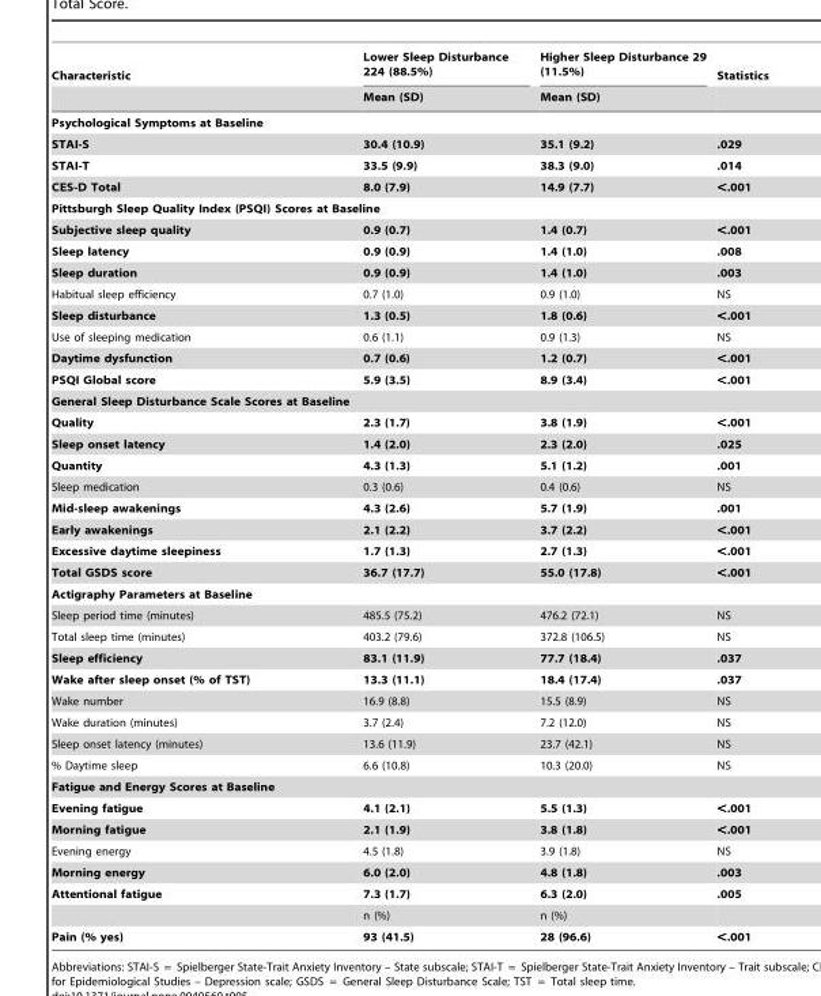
<table><thead><tr><td rowspan="2">Characteristic</td><td rowspan="2">Lower Sleep Disturbance 224 (88.5%) Mean (SD)</td><td rowspan="2">Higher Sleep Disturbance 29 (11.5%) Mean (SD)</td><td rowspan="2">Statistics</td></tr><tr></tr></thead><tbody><tr><td colspan="4">Psychological Symptoms at Baseline</td></tr><tr><td>STAI-S</td><td>30.4 (10.9)</td><td>35.1 (9.2)</td><td>.029</td></tr><tr><td>STAI-T</td><td>33.5 (9.9)</td><td>38.3 (9.0)</td><td>.014</td></tr><tr><td>CES-D Total</td><td>8.0 (7.9)</td><td>14.9 (7.7)</td><td>&lt;.001</td></tr><tr><td colspan="4">Pittsburgh Sleep Quality Index (PSQI) Scores at Baseline</td></tr><tr><td>Subjective sleep quality</td><td>0.9 (0.7)</td><td>1.4 (0.7)</td><td>&lt;.001</td></tr><tr><td>Sleep latency</td><td>0.9 (0.9)</td><td>1.4 (1.0)</td><td>.008</td></tr><tr><td>Sleep duration</td><td>0.9 (0.9)</td><td>1.4 (1.0)</td><td>.003</td></tr><tr><td>Habitual sleep efficiency</td><td>0.7 (1.0)</td><td>0.9 (1.0)</td><td>NS</td></tr><tr><td>Sleep disturbance</td><td>1.3 (0.5)</td><td>1.8 (0.6)</td><td>&lt;.001</td></tr><tr><td>Use of sleeping medication</td><td>0.6 (1.1)</td><td>0.9 (1.3)</td><td>NS</td></tr><tr><td>Daytime dysfunction</td><td>0.7 (0.6)</td><td>1.2 (0.7)</td><td>&lt;.001</td></tr><tr><td>PSQI Global score</td><td>5.9 (3.5)</td><td>8.9 (3.4)</td><td>&lt;.001</td></tr><tr><td colspan="4">General Sleep Disturbance Scale Scores at Baseline</td></tr><tr><td>Quality</td><td>2.3 (1.7)</td><td>3.8 (1.9)</td><td>&lt;.001</td></tr><tr><td>Sleep onset latency</td><td>1.4 (2.0)</td><td>2.3 (2.0)</td><td>.025</td></tr><tr><td>Quantity</td><td>4.3 (1.3)</td><td>5.1 (1.2)</td><td>.001</td></tr><tr><td>Sleep medication</td><td>0.3 (0.6)</td><td>0.4 (0.6)</td><td>NS</td></tr><tr><td>Mid-sleep awakenings</td><td>4.3 (2.6)</td><td>5.7 (1.9)</td><td>.001</td></tr><tr><td>Early awakenings</td><td>2.1 (2.2)</td><td>3.7 (2.2)</td><td>&lt;.001</td></tr><tr><td>Excessive daytime sleepiness</td><td>1.7 (1.3)</td><td>2.7 (1.3)</td><td>&lt;.001</td></tr><tr><td>Total GSDS score</td><td>36.7 (17.7)</td><td>55.0 (17.8)</td><td>&lt;.001</td></tr><tr><td colspan="4">Actigraphy Parameters at Baseline</td></tr><tr><td>Sleep period time (minutes)</td><td>485.5 (75.2)</td><td>476.2 (72.1)</td><td>NS</td></tr><tr><td>Total sleep time (minutes)</td><td>403.2 (79.6)</td><td>372.8 (106.5)</td><td>NS</td></tr><tr><td>Sleep efficiency</td><td>83.1 (11.9)</td><td>77.7 (18.4)</td><td>.037</td></tr><tr><td>Wake after sleep onset (% of TST)</td><td>13.3 (11.1)</td><td>18.4 (17.4)</td><td>.037</td></tr><tr><td>Wake number</td><td>16.9 (8.8)</td><td>15.5 (8.9)</td><td>NS</td></tr><tr><td>Wake duration (minutes)</td><td>3.7 (2.4)</td><td>7.2 (12.0)</td><td>NS</td></tr><tr><td>Sleep onset latency (minutes)</td><td>13.6 (11.9)</td><td>23.7 (42.1)</td><td>NS</td></tr><tr><td>% Daytime sleep</td><td>6.6 (10.8)</td><td>10.3 (20.0)</td><td>NS</td></tr><tr><td colspan="4">Fatigue and Energy Scores at Baseline</td></tr><tr><td>Evening fatigue</td><td>4.1 (2.1)</td><td>5.5 (1.3)</td><td>&lt;.001</td></tr><tr><td>Morning fatigue</td><td>2.1 (1.9)</td><td>3.8 (1.8)</td><td>&lt;.001</td></tr><tr><td>Evening energy</td><td>4.5 (1.8)</td><td>3.9 (1.8)</td><td>NS</td></tr><tr><td>Morning energy</td><td>6.0 (2.0)</td><td>4.8 (1.8)</td><td>.003</td></tr><tr><td rowspan="2">Attentional fatigue</td><td>7.3 (1.7)</td><td>6.3 (2.0)</td><td>.005</td></tr><tr><td>n (%)</td><td>n (%)</td><td></td></tr><tr><td>Pain (% yes)</td><td>93 (41.5)</td><td>28 (96.6)</td><td>&lt;.001</td></tr></tbody></table>